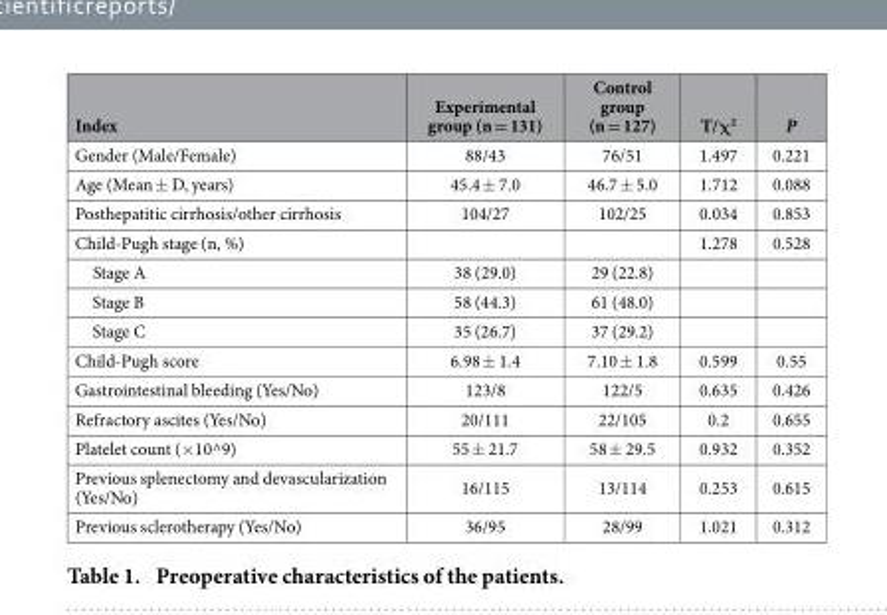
<table><thead><tr><td>Index</td><td>Experimental group (n = 131)</td><td>Control group (n = 127)</td><td>T/χ<sup>2</sup></td><td>P</td></tr></thead><tbody><tr><td>Gender (Male/Female)</td><td>88/43</td><td>76/51</td><td>1.497</td><td>0.221</td></tr><tr><td>Age (Mean ± D, years)</td><td>45.4 ± 7.0</td><td>46.7 ± 5.0</td><td>1.712</td><td>0.088</td></tr><tr><td>Posthepatitic cirrhosis/other cirrhosis</td><td>104/27</td><td>102/25</td><td>0.034</td><td>0.853</td></tr><tr><td>Child-Pugh stage (n, %)</td><td></td><td></td><td>1.278</td><td>0.528</td></tr><tr><td>Stage A</td><td>38 (29.0)</td><td>29 (22.8)</td><td></td><td></td></tr><tr><td>Stage B</td><td>58 (44.3)</td><td>61 (48.0)</td><td></td><td></td></tr><tr><td>Stage C</td><td>35 (26.7)</td><td>37 (29.2)</td><td></td><td></td></tr><tr><td>Child-Pugh score</td><td>6.98 ± 1.4</td><td>7.10 ± 1.8</td><td>0.599</td><td>0.55</td></tr><tr><td>Gastrointestinal bleeding (Yes/No)</td><td>123/8</td><td>122/5</td><td>0.635</td><td>0.426</td></tr><tr><td>Refractory ascites (Yes/No)</td><td>20/111</td><td>22/105</td><td>0.2</td><td>0.655</td></tr><tr><td>Platelet count (×10^9)</td><td>55 ± 21.7</td><td>58 ± 29.5</td><td>0.932</td><td>0.352</td></tr><tr><td>Previous splenectomy and devascularization (Yes/No)</td><td>16/115</td><td>13/114</td><td>0.253</td><td>0.615</td></tr><tr><td>Previous sclerotherapy (Yes/No)</td><td>36/95</td><td>28/99</td><td>1.021</td><td>0.312</td></tr></tbody></table>